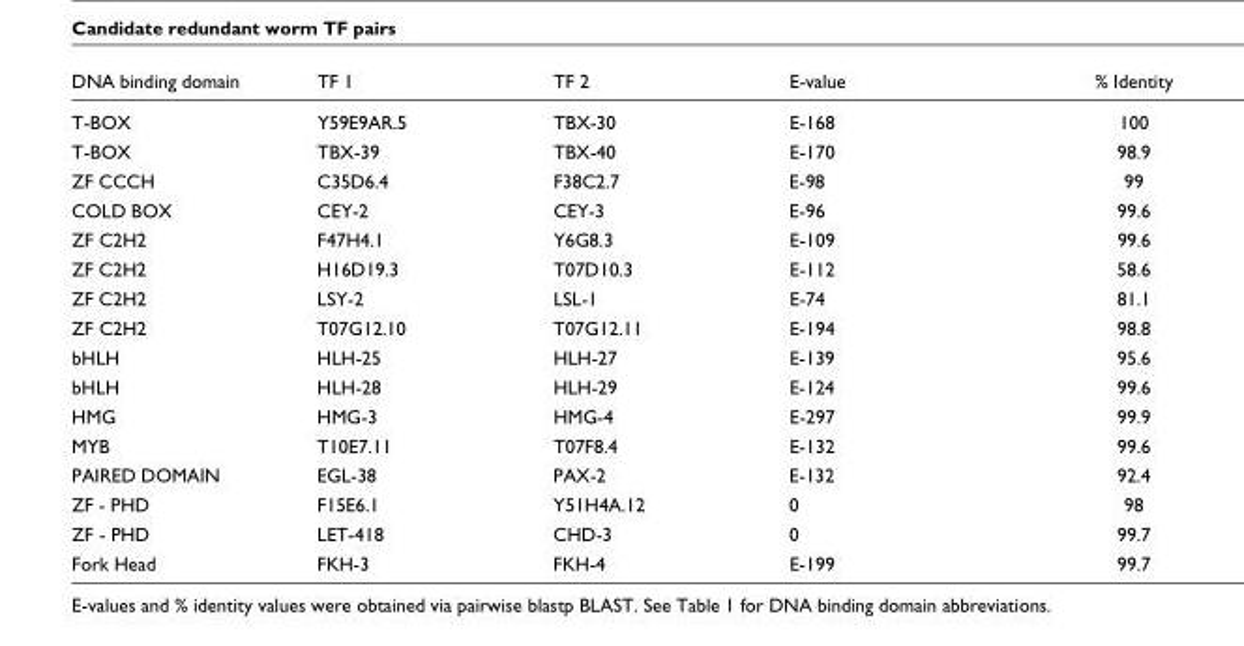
<table><thead><tr><td>DNA binding domain</td><td>TF 1</td><td>TF 2</td><td>E-value</td><td>% Identity</td></tr></thead><tbody><tr><td>T-BOX</td><td>Y59E9AR.5</td><td>TBX-30</td><td>E-168</td><td>100</td></tr><tr><td>T-BOX</td><td>TBX-39</td><td>TBX-40</td><td>E-170</td><td>98.9</td></tr><tr><td>ZF CCCH</td><td>C35D6.4</td><td>F38C2.7</td><td>E-98</td><td>99</td></tr><tr><td>COLD BOX</td><td>CEY-2</td><td>CEY-3</td><td>E-96</td><td>99.6</td></tr><tr><td>ZF C2H2</td><td>F47H4.1</td><td>Y6G8.3</td><td>E-109</td><td>99.6</td></tr><tr><td>ZF C2H2</td><td>H16D19.3</td><td>T07D10.3</td><td>E-112</td><td>58.6</td></tr><tr><td>ZF C2H2</td><td>LSY-2</td><td>LSL-1</td><td>E-74</td><td>81.1</td></tr><tr><td>ZF C2H2</td><td>T07G12.10</td><td>T07G12.11</td><td>E-194</td><td>98.8</td></tr><tr><td>bHLH</td><td>HLH-25</td><td>HLH-27</td><td>E-139</td><td>95.6</td></tr><tr><td>bHLH</td><td>HLH-28</td><td>HLH-29</td><td>E-124</td><td>99.6</td></tr><tr><td>HMG</td><td>HMG-3</td><td>HMG-4</td><td>E-297</td><td>99.9</td></tr><tr><td>MYB</td><td>T10E7.11</td><td>T07F8.4</td><td>E-132</td><td>99.6</td></tr><tr><td>PAIRED DOMAIN</td><td>EGL-38</td><td>PAX-2</td><td>E-132</td><td>92.4</td></tr><tr><td>ZF - PHD</td><td>F15E6.1</td><td>Y51H4A.12</td><td>0</td><td>98</td></tr><tr><td>ZF - PHD</td><td>LET-418</td><td>CHD-3</td><td>0</td><td>99.7</td></tr><tr><td>Fork Head</td><td>FKH-3</td><td>FKH-4</td><td>E-199</td><td>99.7</td></tr></tbody></table>